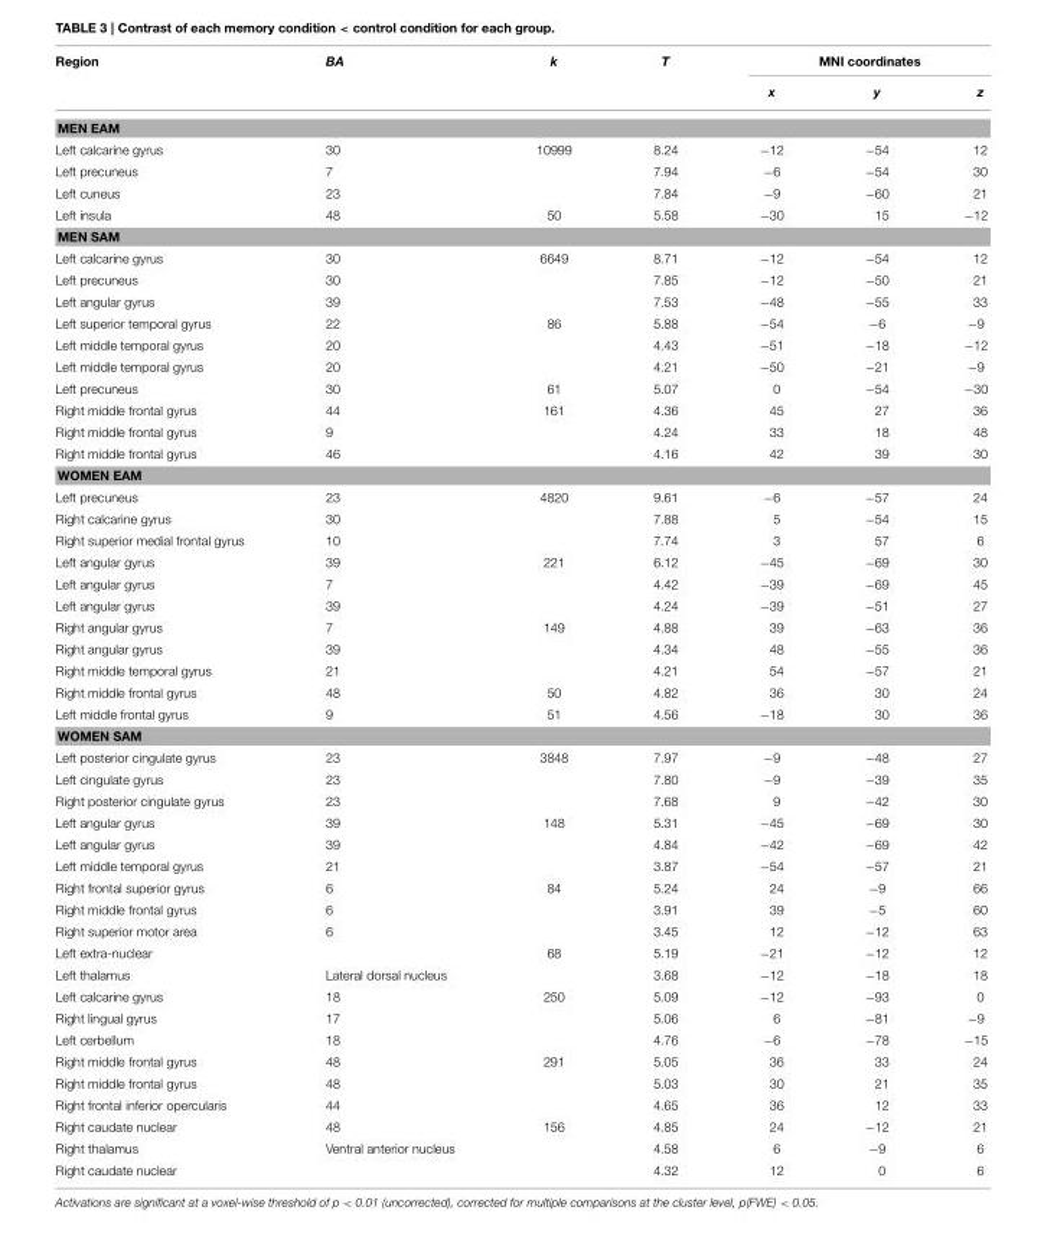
<table><thead><tr><td rowspan="2">Region</td><td rowspan="2">BA</td><td rowspan="2">k</td><td rowspan="2">T</td><td colspan="3">MNI coordinates</td></tr><tr><td>x</td><td>y</td><td>z</td></tr></thead><tbody><tr><td colspan="7">MEN EAM</td></tr><tr><td>Left calcarine gyrus</td><td>30</td><td>10999</td><td>8.24</td><td>−12</td><td>−54</td><td>12</td></tr><tr><td>Left precuneus</td><td>7</td><td></td><td>7.94</td><td>−6</td><td>−54</td><td>30</td></tr><tr><td>Left cuneus</td><td>23</td><td></td><td>7.84</td><td>−9</td><td>−60</td><td>21</td></tr><tr><td>Left insula</td><td>48</td><td>50</td><td>5.58</td><td>−30</td><td>15</td><td>−12</td></tr><tr><td colspan="7">MEN SAM</td></tr><tr><td>Left calcarine gyrus</td><td>30</td><td>6649</td><td>8.71</td><td>−12</td><td>−54</td><td>12</td></tr><tr><td>Left precuneus</td><td>30</td><td></td><td>7.85</td><td>−12</td><td>−50</td><td>21</td></tr><tr><td>Left angular gyrus</td><td>39</td><td></td><td>7.53</td><td>−48</td><td>−55</td><td>33</td></tr><tr><td>Left superior temporal gyrus</td><td>22</td><td>86</td><td>5.88</td><td>−54</td><td>−6</td><td>−9</td></tr><tr><td>Left middle temporal gyrus</td><td>20</td><td></td><td>4.43</td><td>−51</td><td>−18</td><td>−12</td></tr><tr><td>Left middle temporal gyrus</td><td>20</td><td></td><td>4.21</td><td>−50</td><td>−21</td><td>−9</td></tr><tr><td>Left precuneus</td><td>30</td><td>61</td><td>5.07</td><td>0</td><td>−54</td><td>−30</td></tr><tr><td>Right middle frontal gyrus</td><td>44</td><td>161</td><td>4.36</td><td>45</td><td>27</td><td>36</td></tr><tr><td>Right middle frontal gyrus</td><td>9</td><td></td><td>4.24</td><td>33</td><td>18</td><td>48</td></tr><tr><td>Right middle frontal gyrus</td><td>46</td><td></td><td>4.16</td><td>42</td><td>39</td><td>30</td></tr><tr><td colspan="7">WOMEN EAM</td></tr><tr><td>Left precuneus</td><td>23</td><td>4820</td><td>9.61</td><td>−6</td><td>−57</td><td>24</td></tr><tr><td>Right calcarine gyrus</td><td>30</td><td></td><td>7.88</td><td>5</td><td>−54</td><td>15</td></tr><tr><td>Right superior medial frontal gyrus</td><td>10</td><td></td><td>7.74</td><td>3</td><td>57</td><td>6</td></tr><tr><td>Left angular gyrus</td><td>39</td><td>221</td><td>6.12</td><td>−45</td><td>−69</td><td>30</td></tr><tr><td>Left angular gyrus</td><td>7</td><td></td><td>4.42</td><td>−39</td><td>−69</td><td>45</td></tr><tr><td>Left angular gyrus</td><td>39</td><td></td><td>4.24</td><td>−39</td><td>−51</td><td>27</td></tr><tr><td>Right angular gyrus</td><td>7</td><td>149</td><td>4.88</td><td>39</td><td>−63</td><td>36</td></tr><tr><td>Right angular gyrus</td><td>39</td><td></td><td>4.34</td><td>48</td><td>−55</td><td>36</td></tr><tr><td>Right middle temporal gyrus</td><td>21</td><td></td><td>4.21</td><td>54</td><td>−57</td><td>21</td></tr><tr><td>Right middle frontal gyrus</td><td>48</td><td>50</td><td>4.82</td><td>36</td><td>30</td><td>24</td></tr><tr><td>Left middle frontal gyrus</td><td>9</td><td>51</td><td>4.56</td><td>−18</td><td>30</td><td>36</td></tr><tr><td colspan="7">WOMEN SAM</td></tr><tr><td>Left posterior cingulate gyrus</td><td>23</td><td>3848</td><td>7.97</td><td>−9</td><td>−48</td><td>27</td></tr><tr><td>Left cingulate gyrus</td><td>23</td><td></td><td>7.80</td><td>−9</td><td>−39</td><td>35</td></tr><tr><td>Right posterior cingulate gyrus</td><td>23</td><td></td><td>7.68</td><td>9</td><td>−42</td><td>30</td></tr><tr><td>Left angular gyrus</td><td>39</td><td>148</td><td>5.31</td><td>−45</td><td>−69</td><td>30</td></tr><tr><td>Left angular gyrus</td><td>39</td><td></td><td>4.84</td><td>−42</td><td>−69</td><td>42</td></tr><tr><td>Left middle temporal gyrus</td><td>21</td><td></td><td>3.87</td><td>−54</td><td>−57</td><td>21</td></tr><tr><td>Right frontal superior gyrus</td><td>6</td><td>84</td><td>5.24</td><td>24</td><td>−9</td><td>66</td></tr><tr><td>Right middle frontal gyrus</td><td>6</td><td></td><td>3.91</td><td>39</td><td>−5</td><td>60</td></tr><tr><td>Right superior motor area</td><td>6</td><td></td><td>3.45</td><td>12</td><td>−12</td><td>63</td></tr><tr><td>Left extra-nuclear</td><td></td><td>68</td><td>5.19</td><td>−21</td><td>−12</td><td>12</td></tr><tr><td>Left thalamus</td><td>Lateral dorsal nucleus</td><td></td><td>3.68</td><td>−12</td><td>−18</td><td>18</td></tr><tr><td>Left calcarine gyrus</td><td>18</td><td>250</td><td>5.09</td><td>−12</td><td>−93</td><td>0</td></tr><tr><td>Right lingual gyrus</td><td>17</td><td></td><td>5.06</td><td>6</td><td>−81</td><td>−9</td></tr><tr><td>Left cerbellum</td><td>18</td><td></td><td>4.76</td><td>−6</td><td>−78</td><td>−15</td></tr><tr><td>Right middle frontal gyrus</td><td>48</td><td>291</td><td>5.05</td><td>36</td><td>33</td><td>24</td></tr><tr><td>Right middle frontal gyrus</td><td>48</td><td></td><td>5.03</td><td>30</td><td>21</td><td>35</td></tr><tr><td>Right frontal inferior opercularis</td><td>44</td><td></td><td>4.65</td><td>36</td><td>12</td><td>33</td></tr><tr><td>Right caudate nuclear</td><td>48</td><td>156</td><td>4.85</td><td>24</td><td>−12</td><td>21</td></tr><tr><td>Right thalamus</td><td>Ventral anterior nucleus</td><td></td><td>4.58</td><td>6</td><td>−9</td><td>6</td></tr><tr><td>Right caudate nuclear</td><td></td><td></td><td>4.32</td><td>12</td><td>0</td><td>6</td></tr></tbody></table>